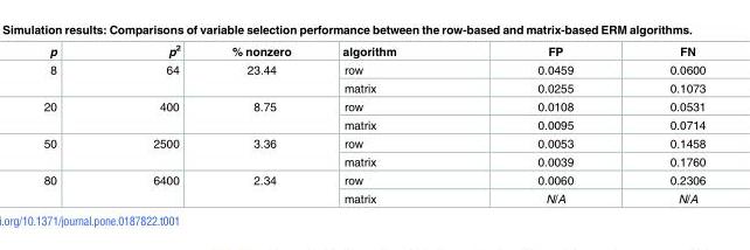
<table><thead><tr><td>p</td><td>p<sup>2</sup></td><td>% nonzero</td><td>algorithm</td><td>FP</td><td>FN</td></tr></thead><tbody><tr><td rowspan="2">8</td><td rowspan="2">64</td><td rowspan="2">23.44</td><td>row</td><td>0.0459</td><td>0.0600</td></tr><tr><td>matrix</td><td>0.0255</td><td>0.1073</td></tr><tr><td rowspan="2">20</td><td rowspan="2">400</td><td rowspan="2">8.75</td><td>row</td><td>0.0108</td><td>0.0531</td></tr><tr><td>matrix</td><td>0.0095</td><td>0.0714</td></tr><tr><td rowspan="2">50</td><td rowspan="2">2500</td><td rowspan="2">3.36</td><td>row</td><td>0.0053</td><td>0.1458</td></tr><tr><td>matrix</td><td>0.0039</td><td>0.1760</td></tr><tr><td rowspan="2">80</td><td rowspan="2">6400</td><td rowspan="2">2.34</td><td>row</td><td>0.0060</td><td>0.2306</td></tr><tr><td>matrix</td><td>N/A</td><td>N/A</td></tr></tbody></table>